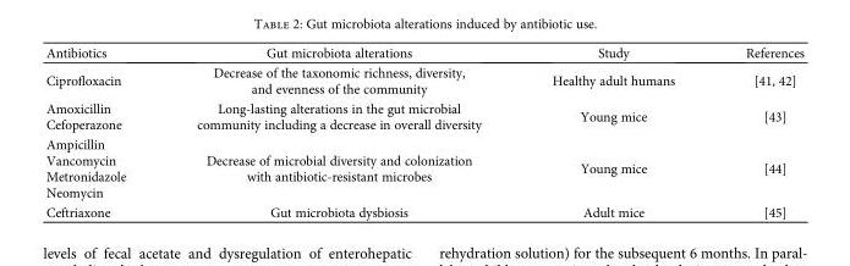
<table><thead><tr><td>Antibiotics</td><td>Gut microbiota alterations</td><td>Study</td><td>References</td></tr></thead><tbody><tr><td>Ciprofloxacin</td><td>Decrease of the taxonomic richness, diversity, and evenness of the community</td><td>Healthy adult humans</td><td>[41, 42]</td></tr><tr><td>Amoxicillin Cefoperazone</td><td>Long-lasting alterations in the gut microbial community including a decrease in overall diversity</td><td>Young mice</td><td>[43]</td></tr><tr><td>Ampicillin Vancomycin Metronidazole Neomycin</td><td>Decrease of microbial diversity and colonization with antibiotic-resistant microbes</td><td>Young mice</td><td>[44]</td></tr><tr><td>Ceftriaxone</td><td>Gut microbiota dysbiosis</td><td>Adult mice</td><td>[45]</td></tr></tbody></table>